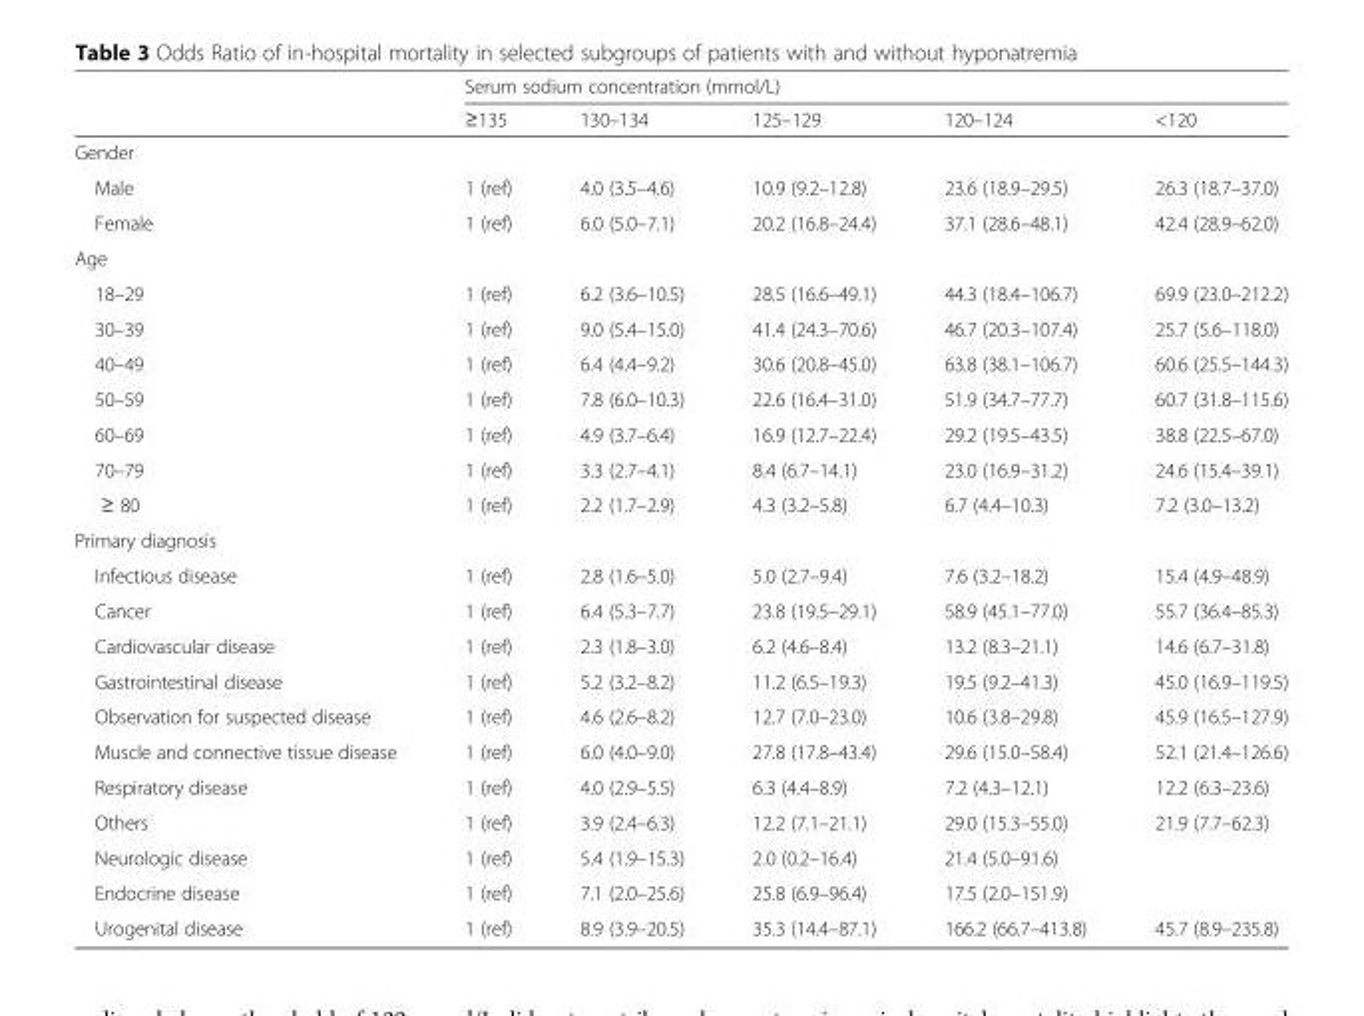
<table><thead><tr><td rowspan="2"></td><td colspan="5">Serum sodium concentration (mmol/L)</td></tr><tr><td>≥135</td><td>130–134</td><td>125–129</td><td>120–124</td><td>&lt;120</td></tr></thead><tbody><tr><td colspan="6">Gender</td></tr><tr><td>Male</td><td>1 (ref)</td><td>4.0 (3.5–4.6)</td><td>10.9 (9.2–12.8)</td><td>23.6 (18.9–29.5)</td><td>26.3 (18.7–37.0)</td></tr><tr><td>Female</td><td>1 (ref)</td><td>6.0 (5.0–7.1)</td><td>20.2 (16.8–24.4)</td><td>37.1 (28.6–48.1)</td><td>42.4 (28.9–62.0)</td></tr><tr><td colspan="6">Age</td></tr><tr><td>18–29</td><td>1 (ref)</td><td>6.2 (3.6–10.5)</td><td>28.5 (16.6–49.1)</td><td>44.3 (18.4–106.7)</td><td>69.9 (23.0–212.2)</td></tr><tr><td>30–39</td><td>1 (ref)</td><td>9.0 (5.4–15.0)</td><td>41.4 (24.3–70.6)</td><td>46.7 (20.3–107.4)</td><td>25.7 (5.6–118.0)</td></tr><tr><td>40–49</td><td>1 (ref)</td><td>6.4 (4.4–9.2)</td><td>30.6 (20.8–45.0)</td><td>63.8 (38.1–106.7)</td><td>60.6 (25.5–144.3)</td></tr><tr><td>50–59</td><td>1 (ref)</td><td>7.8 (6.0–10.3)</td><td>22.6 (16.4–31.0)</td><td>51.9 (34.7–77.7)</td><td>60.7 (31.8–115.6)</td></tr><tr><td>60–69</td><td>1 (ref)</td><td>4.9 (3.7–6.4)</td><td>16.9 (12.7–22.4)</td><td>29.2 (19.5–43.5)</td><td>38.8 (22.5–67.0)</td></tr><tr><td>70–79</td><td>1 (ref)</td><td>3.3 (2.7–4.1)</td><td>8.4 (6.7–14.1)</td><td>23.0 (16.9–31.2)</td><td>24.6 (15.4–39.1)</td></tr><tr><td>≥ 80</td><td>1 (ref)</td><td>2.2 (1.7–2.9)</td><td>4.3 (3.2–5.8)</td><td>6.7 (4.4–10.3)</td><td>7.2 (3.0–13.2)</td></tr><tr><td colspan="6">Primary diagnosis</td></tr><tr><td>Infectious disease</td><td>1 (ref)</td><td>2.8 (1.6–5.0)</td><td>5.0 (2.7–9.4)</td><td>7.6 (3.2–18.2)</td><td>15.4 (4.9–48.9)</td></tr><tr><td>Cancer</td><td>1 (ref)</td><td>6.4 (5.3–7.7)</td><td>23.8 (19.5–29.1)</td><td>58.9 (45.1–77.0)</td><td>55.7 (36.4–85.3)</td></tr><tr><td>Cardiovascular disease</td><td>1 (ref)</td><td>2.3 (1.8–3.0)</td><td>6.2 (4.6–8.4)</td><td>13.2 (8.3–21.1)</td><td>14.6 (6.7–31.8)</td></tr><tr><td>Gastrointestinal disease</td><td>1 (ref)</td><td>5.2 (3.2–8.2)</td><td>11.2 (6.5–19.3)</td><td>19.5 (9.2–41.3)</td><td>45.0 (16.9–119.5)</td></tr><tr><td>Observation for suspected disease</td><td>1 (ref)</td><td>4.6 (2.6–8.2)</td><td>12.7 (7.0–23.0)</td><td>10.6 (3.8–29.8)</td><td>45.9 (16.5–127.9)</td></tr><tr><td>Muscle and connective tissue disease</td><td>1 (ref)</td><td>6.0 (4.0–9.0)</td><td>27.8 (17.8–43.4)</td><td>29.6 (15.0–58.4)</td><td>52.1 (21.4–126.6)</td></tr><tr><td>Respiratory disease</td><td>1 (ref)</td><td>4.0 (2.9–5.5)</td><td>6.3 (4.4–8.9)</td><td>7.2 (4.3–12.1)</td><td>12.2 (6.3–23.6)</td></tr><tr><td>Others</td><td>1 (ref)</td><td>3.9 (2.4–6.3)</td><td>12.2 (7.1–21.1)</td><td>29.0 (15.3–55.0)</td><td>21.9 (7.7–62.3)</td></tr><tr><td>Neurologic disease</td><td>1 (ref)</td><td>5.4 (1.9–15.3)</td><td>2.0 (0.2–16.4)</td><td>21.4 (5.0–91.6)</td><td></td></tr><tr><td>Endocrine disease</td><td>1 (ref)</td><td>7.1 (2.0–25.6)</td><td>25.8 (6.9–96.4)</td><td>17.5 (2.0–151.9)</td><td></td></tr><tr><td>Urogenital disease</td><td>1 (ref)</td><td>8.9 (3.9–20.5)</td><td>35.3 (14.4–87.1)</td><td>166.2 (66.7–413.8)</td><td>45.7 (8.9–235.8)</td></tr></tbody></table>